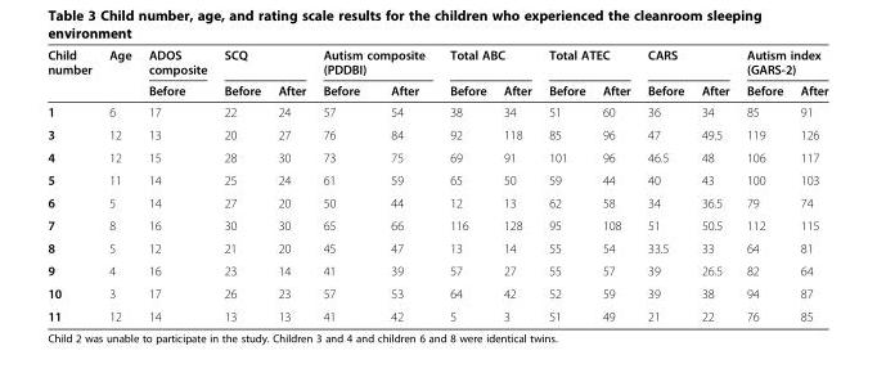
<table><thead><tr><td rowspan="2">Child number</td><td rowspan="2">Age</td><td rowspan="2">ADOS composite Before</td><td colspan="2">SCQ</td><td colspan="2">Autism composite (PDDBI)</td><td colspan="2">Total ABC</td><td colspan="2">Total ATEC</td><td colspan="2">CARS</td><td colspan="2">Autism index (GARS-2)</td></tr><tr><td>Before</td><td>After</td><td>Before</td><td>After</td><td>Before</td><td>After</td><td>Before</td><td>After</td><td>Before</td><td>After</td><td>Before</td><td>After</td></tr></thead><tbody><tr><td>1</td><td>6</td><td>17</td><td>22</td><td>24</td><td>57</td><td>54</td><td>38</td><td>34</td><td>51</td><td>60</td><td>36</td><td>34</td><td>85</td><td>91</td></tr><tr><td>3</td><td>12</td><td>13</td><td>20</td><td>27</td><td>76</td><td>84</td><td>92</td><td>118</td><td>85</td><td>96</td><td>47</td><td>49.5</td><td>119</td><td>126</td></tr><tr><td>4</td><td>12</td><td>15</td><td>28</td><td>30</td><td>73</td><td>75</td><td>69</td><td>91</td><td>101</td><td>96</td><td>46.5</td><td>48</td><td>106</td><td>117</td></tr><tr><td>5</td><td>11</td><td>14</td><td>25</td><td>24</td><td>61</td><td>59</td><td>65</td><td>50</td><td>59</td><td>44</td><td>40</td><td>43</td><td>100</td><td>103</td></tr><tr><td>6</td><td>5</td><td>14</td><td>27</td><td>20</td><td>50</td><td>44</td><td>12</td><td>13</td><td>62</td><td>58</td><td>34</td><td>36.5</td><td>79</td><td>74</td></tr><tr><td>7</td><td>8</td><td>16</td><td>30</td><td>30</td><td>65</td><td>66</td><td>116</td><td>128</td><td>95</td><td>108</td><td>51</td><td>50.5</td><td>112</td><td>115</td></tr><tr><td>8</td><td>5</td><td>12</td><td>21</td><td>20</td><td>45</td><td>47</td><td>13</td><td>14</td><td>55</td><td>54</td><td>33.5</td><td>33</td><td>64</td><td>81</td></tr><tr><td>9</td><td>4</td><td>16</td><td>23</td><td>14</td><td>41</td><td>39</td><td>57</td><td>27</td><td>55</td><td>57</td><td>39</td><td>26.5</td><td>82</td><td>64</td></tr><tr><td>10</td><td>3</td><td>17</td><td>26</td><td>23</td><td>57</td><td>53</td><td>64</td><td>42</td><td>52</td><td>59</td><td>39</td><td>38</td><td>94</td><td>87</td></tr><tr><td>11</td><td>12</td><td>14</td><td>13</td><td>13</td><td>41</td><td>42</td><td>5</td><td>3</td><td>51</td><td>49</td><td>21</td><td>22</td><td>76</td><td>85</td></tr></tbody></table>